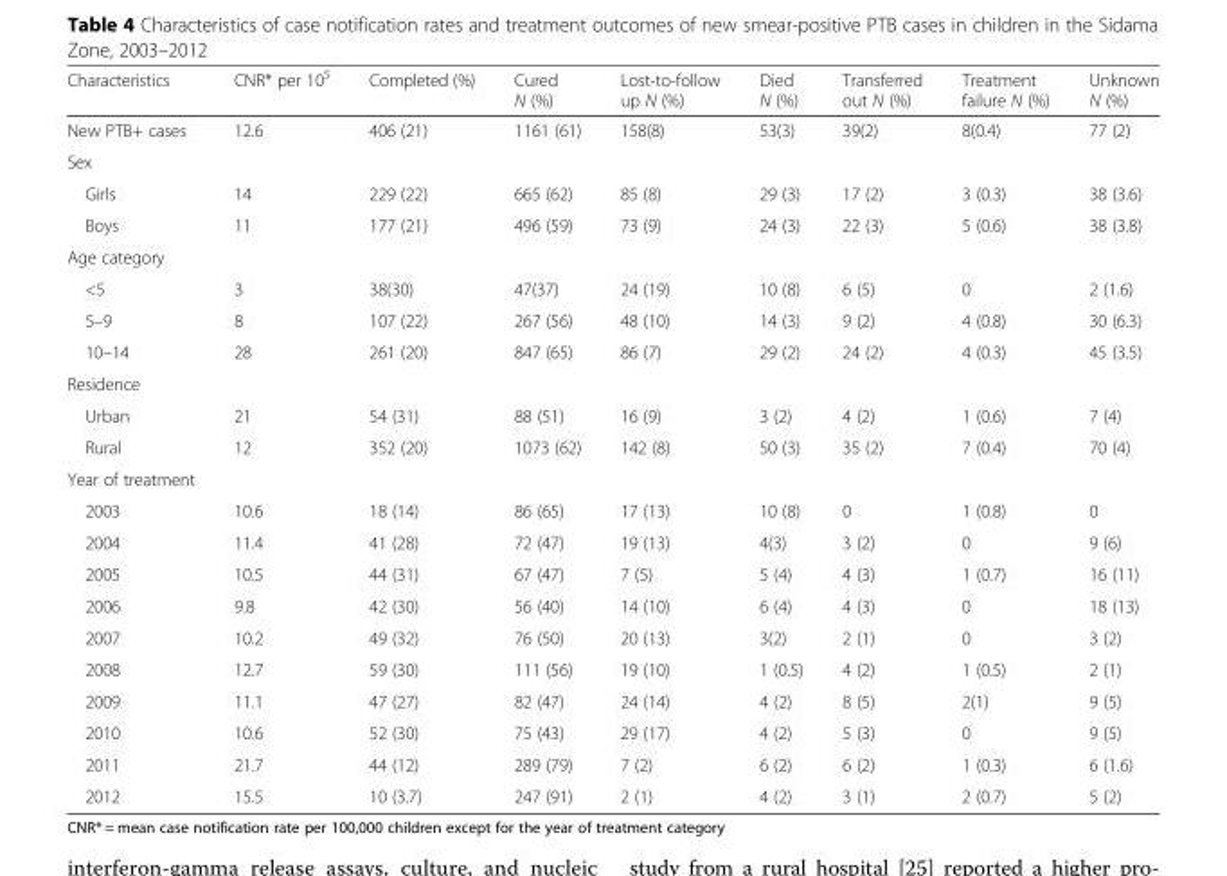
<table><thead><tr><td>Characteristics</td><td>CNR* per 10<sup>5</sup></td><td>Completed (%)</td><td>Cured N (%)</td><td>Lost-to-follow up N (%)</td><td>Died N (%)</td><td>Transferred out N (%)</td><td>Treatment failure N (%)</td><td>Unknown N (%)</td></tr></thead><tbody><tr><td>New PTB+ cases</td><td>12.6</td><td>406 (21)</td><td>1161 (61)</td><td>158(8)</td><td>53(3)</td><td>39(2)</td><td>8(0.4)</td><td>77 (2)</td></tr><tr><td colspan="9">Sex</td></tr><tr><td>Girls</td><td>14</td><td>229 (22)</td><td>665 (62)</td><td>85 (8)</td><td>29 (3)</td><td>17 (2)</td><td>3 (0.3)</td><td>38 (3.6)</td></tr><tr><td>Boys</td><td>11</td><td>177 (21)</td><td>496 (59)</td><td>73 (9)</td><td>24 (3)</td><td>22 (3)</td><td>5 (0.6)</td><td>38 (3.8)</td></tr><tr><td colspan="9">Age category</td></tr><tr><td>&lt;5</td><td>3</td><td>38(30)</td><td>47(37)</td><td>24 (19)</td><td>10 (8)</td><td>6 (5)</td><td>0</td><td>2 (1.6)</td></tr><tr><td>5–9</td><td>8</td><td>107 (22)</td><td>267 (56)</td><td>48 (10)</td><td>14 (3)</td><td>9 (2)</td><td>4 (0.8)</td><td>30 (6.3)</td></tr><tr><td>10–14</td><td>28</td><td>261 (20)</td><td>847 (65)</td><td>86 (7)</td><td>29 (2)</td><td>24 (2)</td><td>4 (0.3)</td><td>45 (3.5)</td></tr><tr><td colspan="9">Residence</td></tr><tr><td>Urban</td><td>21</td><td>54 (31)</td><td>88 (51)</td><td>16 (9)</td><td>3 (2)</td><td>4 (2)</td><td>1 (0.6)</td><td>7 (4)</td></tr><tr><td>Rural</td><td>12</td><td>352 (20)</td><td>1073 (62)</td><td>142 (8)</td><td>50 (3)</td><td>35 (2)</td><td>7 (0.4)</td><td>70 (4)</td></tr><tr><td colspan="9">Year of treatment</td></tr><tr><td>2003</td><td>10.6</td><td>18 (14)</td><td>86 (65)</td><td>17 (13)</td><td>10 (8)</td><td>0</td><td>1 (0.8)</td><td>0</td></tr><tr><td>2004</td><td>11.4</td><td>41 (28)</td><td>72 (47)</td><td>19 (13)</td><td>4(3)</td><td>3 (2)</td><td>0</td><td>9 (6)</td></tr><tr><td>2005</td><td>10.5</td><td>44 (31)</td><td>67 (47)</td><td>7 (5)</td><td>5 (4)</td><td>4 (3)</td><td>1 (0.7)</td><td>16 (11)</td></tr><tr><td>2006</td><td>9.8</td><td>42 (30)</td><td>56 (40)</td><td>14 (10)</td><td>6 (4)</td><td>4 (3)</td><td>0</td><td>18 (13)</td></tr><tr><td>2007</td><td>10.2</td><td>49 (32)</td><td>76 (50)</td><td>20 (13)</td><td>3(2)</td><td>2 (1)</td><td>0</td><td>3 (2)</td></tr><tr><td>2008</td><td>12.7</td><td>59 (30)</td><td>111 (56)</td><td>19 (10)</td><td>1 (0.5)</td><td>4 (2)</td><td>1 (0.5)</td><td>2 (1)</td></tr><tr><td>2009</td><td>11.1</td><td>47 (27)</td><td>82 (47)</td><td>24 (14)</td><td>4 (2)</td><td>8 (5)</td><td>2(1)</td><td>9 (5)</td></tr><tr><td>2010</td><td>10.6</td><td>52 (30)</td><td>75 (43)</td><td>29 (17)</td><td>4 (2)</td><td>5 (3)</td><td>0</td><td>9 (5)</td></tr><tr><td>2011</td><td>21.7</td><td>44 (12)</td><td>289 (79)</td><td>7 (2)</td><td>6 (2)</td><td>6 (2)</td><td>1 (0.3)</td><td>6 (1.6)</td></tr><tr><td>2012</td><td>15.5</td><td>10 (3.7)</td><td>247 (91)</td><td>2 (1)</td><td>4 (2)</td><td>3 (1)</td><td>2 (0.7)</td><td>5 (2)</td></tr></tbody></table>